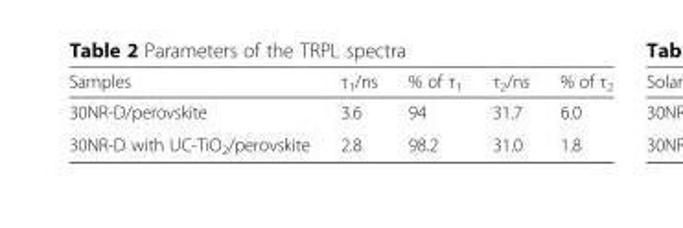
<table><thead><tr><td>Samples</td><td>τ<sub>1</sub>/ns</td><td>% of τ<sub>1</sub></td><td>τ<sub>2</sub>/ns</td><td>% of τ<sub>2</sub></td></tr></thead><tbody><tr><td>30NR-D/perovskite</td><td>3.6</td><td>94</td><td>31.7</td><td>6.0</td></tr><tr><td>30NR-D with UC-TiO<sub>2</sub>/perovskite</td><td>2.8</td><td>98.2</td><td>31.0</td><td>1.8</td></tr></tbody></table>